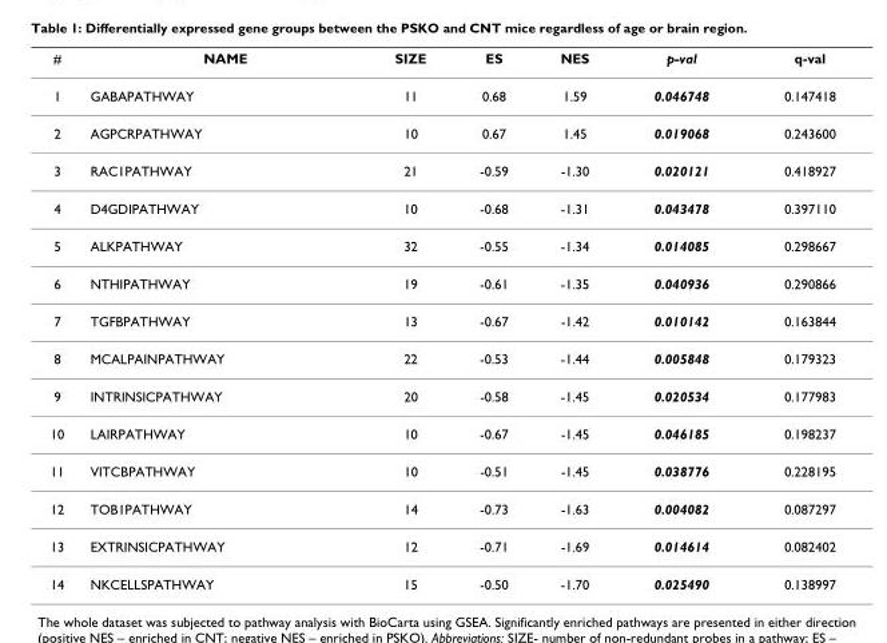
<table><thead><tr><td>#</td><td>NAME</td><td>SIZE</td><td>ES</td><td>NES</td><td>p-val</td><td>q-val</td></tr></thead><tbody><tr><td>1</td><td>GABAPATHWAY</td><td>11</td><td>0.68</td><td>1.59</td><td>0.046748</td><td>0.147418</td></tr><tr><td>2</td><td>AGPCRPATHWAY</td><td>10</td><td>0.67</td><td>1.45</td><td>0.019068</td><td>0.243600</td></tr><tr><td>3</td><td>RAC1PATHWAY</td><td>21</td><td>-0.59</td><td>-1.30</td><td>0.020121</td><td>0.418927</td></tr><tr><td>4</td><td>D4GDIPATHWAY</td><td>10</td><td>-0.68</td><td>-1.31</td><td>0.043478</td><td>0.397110</td></tr><tr><td>5</td><td>ALKPATHWAY</td><td>32</td><td>-0.55</td><td>-1.34</td><td>0.014085</td><td>0.298667</td></tr><tr><td>6</td><td>NTHIPATHWAY</td><td>19</td><td>-0.61</td><td>-1.35</td><td>0.040936</td><td>0.290866</td></tr><tr><td>7</td><td>TGFBPATHWAY</td><td>13</td><td>-0.67</td><td>-1.42</td><td>0.010142</td><td>0.163844</td></tr><tr><td>8</td><td>MCALPAINPATHWAY</td><td>22</td><td>-0.53</td><td>-1.44</td><td>0.005848</td><td>0.179323</td></tr><tr><td>9</td><td>INTRINSICPATHWAY</td><td>20</td><td>-0.58</td><td>-1.45</td><td>0.020534</td><td>0.177983</td></tr><tr><td>10</td><td>LAIRPATHWAY</td><td>10</td><td>-0.67</td><td>-1.45</td><td>0.046185</td><td>0.198237</td></tr><tr><td>11</td><td>VITCBPATHWAY</td><td>10</td><td>-0.51</td><td>-1.45</td><td>0.038776</td><td>0.228195</td></tr><tr><td>12</td><td>TOB1PATHWAY</td><td>14</td><td>-0.73</td><td>-1.63</td><td>0.004082</td><td>0.087297</td></tr><tr><td>13</td><td>EXTRINSICPATHWAY</td><td>12</td><td>-0.71</td><td>-1.69</td><td>0.014614</td><td>0.082402</td></tr><tr><td>14</td><td>NKCELLSPATHWAY</td><td>15</td><td>-0.50</td><td>-1.70</td><td>0.025490</td><td>0.138997</td></tr></tbody></table>